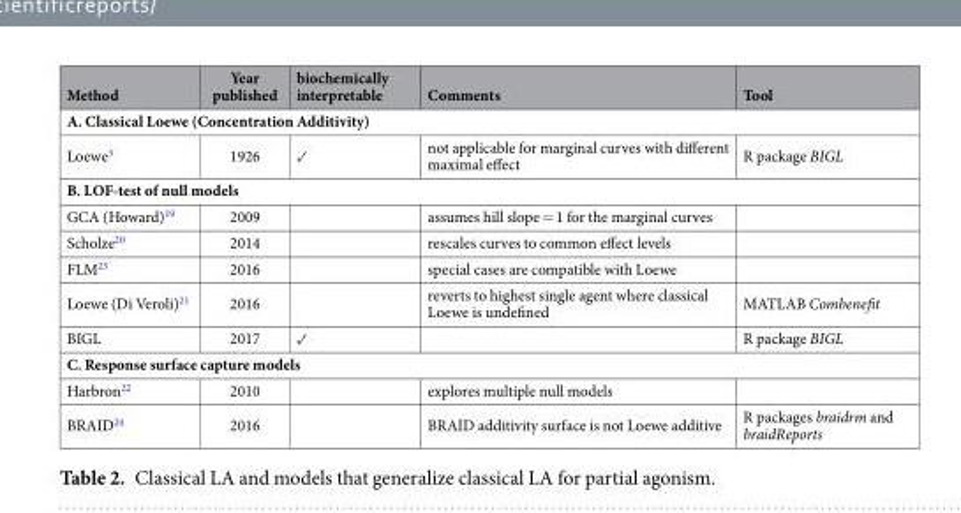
<table><thead><tr><td>Method</td><td>Year published</td><td>biochemically interpretable</td><td>Comments</td><td>Tool</td></tr></thead><tbody><tr><td colspan="5">A. Classical Loewe (Concentration Additivity)</td></tr><tr><td>Loewe<sup>3</sup></td><td>1926</td><td>✓</td><td>not applicable for marginal curves with different maximal effect</td><td>R package BIGL</td></tr><tr><td colspan="5">B. LOF-test of null models</td></tr><tr><td>GCA (Howard)<sup>19</sup></td><td>2009</td><td></td><td>assumes hill slope = 1 for the marginal curves</td><td></td></tr><tr><td>Scholze<sup>20</sup></td><td>2014</td><td></td><td>rescales curves to common effect levels</td><td></td></tr><tr><td>FLM<sup>23</sup></td><td>2016</td><td></td><td>special cases are compatible with Loewe</td><td></td></tr><tr><td>Loewe (Di Veroli)<sup>21</sup></td><td>2016</td><td></td><td>reverts to highest single agent where classical Loewe is undefined</td><td>MATLAB Combenefit</td></tr><tr><td>BIGL</td><td>2017</td><td>✓</td><td></td><td>R package BIGL</td></tr><tr><td colspan="5">C. Response surface capture models</td></tr><tr><td>Harbron<sup>22</sup></td><td>2010</td><td></td><td>explores multiple null models</td><td></td></tr><tr><td>BRAID<sup>24</sup></td><td>2016</td><td></td><td>BRAID additivity surface is not Loewe additive</td><td>R packages braidrm and braidReports</td></tr></tbody></table>